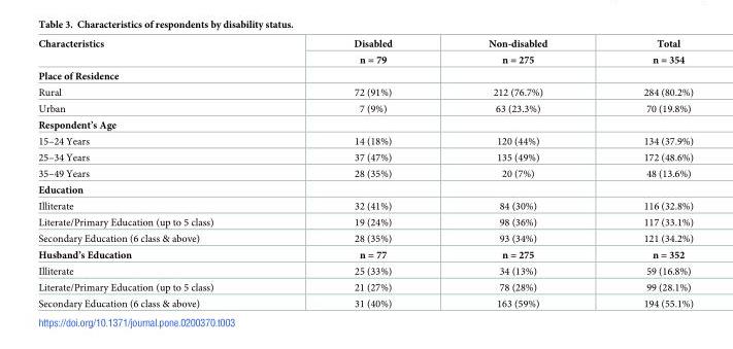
<table><thead><tr><td rowspan="2">Characteristics</td><td rowspan="2">Disabled n = 79</td><td rowspan="2">Non-disabled n = 275</td><td rowspan="2">Total n = 354</td></tr><tr></tr></thead><tbody><tr><td colspan="4">Place of Residence</td></tr><tr><td>Rural</td><td>72 (91%)</td><td>212 (76.7%)</td><td>284 (80.2%)</td></tr><tr><td>Urban</td><td>7 (9%)</td><td>63 (23.3%)</td><td>70 (19.8%)</td></tr><tr><td colspan="4">Respondent’s Age</td></tr><tr><td>15–24 Years</td><td>14 (18%)</td><td>120 (44%)</td><td>134 (37.9%)</td></tr><tr><td>25–34 Years</td><td>37 (47%)</td><td>135 (49%)</td><td>172 (48.6%)</td></tr><tr><td>35–49 Years</td><td>28 (35%)</td><td>20 (7%)</td><td>48 (13.6%)</td></tr><tr><td colspan="4">Education</td></tr><tr><td>Illiterate</td><td>32 (41%)</td><td>84 (30%)</td><td>116 (32.8%)</td></tr><tr><td>Literate/Primary Education (up to 5 class)</td><td>19 (24%)</td><td>98 (36%)</td><td>117 (33.1%)</td></tr><tr><td>Secondary Education (6 class &amp; above)</td><td>28 (35%)</td><td>93 (34%)</td><td>121 (34.2%)</td></tr><tr><td>Husband’s Education</td><td>n = 77</td><td>n = 275</td><td>n = 352</td></tr><tr><td>Illiterate</td><td>25 (33%)</td><td>34 (13%)</td><td>59 (16.8%)</td></tr><tr><td>Literate/Primary Education (up to 5 class)</td><td>21 (27%)</td><td>78 (28%)</td><td>99 (28.1%)</td></tr><tr><td>Secondary Education (6 class &amp; above)</td><td>31 (40%)</td><td>163 (59%)</td><td>194 (55.1%)</td></tr></tbody></table>